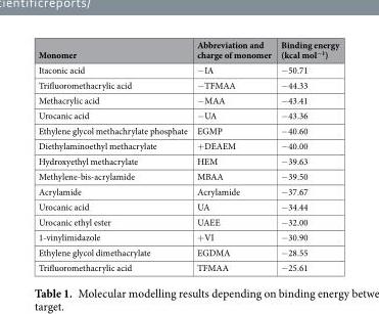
<table><thead><tr><td>Monomer</td><td>Abbreviation and charge of monomer</td><td>Binding energy (kcal mol<sup>−1</sup>)</td></tr></thead><tbody><tr><td>Itaconic acid</td><td>−IA</td><td>−50.71</td></tr><tr><td>Trifluoromethacrylic acid</td><td>−TFMAA</td><td>−44.33</td></tr><tr><td>Methacrylic acid</td><td>−MAA</td><td>−43.41</td></tr><tr><td>Urocanic acid</td><td>−UA</td><td>−43.36</td></tr><tr><td>Ethylene glycol methachrylate phosphate</td><td>EGMP</td><td>−40.60</td></tr><tr><td>Diethylaminoethyl methacrylate</td><td>+DEAEM</td><td>−40.00</td></tr><tr><td>Hydroxyethyl methacrylate</td><td>HEM</td><td>−39.63</td></tr><tr><td>Methylene-bis-acrylamide</td><td>MBAA</td><td>−39.50</td></tr><tr><td>Acrylamide</td><td>Acrylamide</td><td>−37.67</td></tr><tr><td>Urocanic acid</td><td>UA</td><td>−34.44</td></tr><tr><td>Urocanic ethyl ester</td><td>UAEE</td><td>−32.00</td></tr><tr><td>1-vinylimidazole</td><td>+VI</td><td>−30.90</td></tr><tr><td>Ethylene glycol dimethacrylate</td><td>EGDMA</td><td>−28.55</td></tr><tr><td>Trifluoromethacrylic acid</td><td>TFMAA</td><td>−25.61</td></tr></tbody></table>